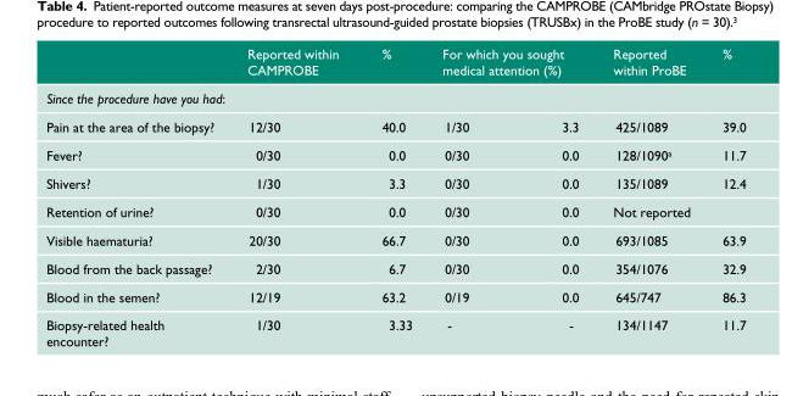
<table><thead><tr><td></td><td>Reported within CAMPROBE</td><td>%</td><td colspan="2">For which you sought medical attention (%)</td><td>Reported within ProBE</td><td>%</td></tr><tr><td colspan="7">Since the procedure have you had:</td></tr><tr><td>Pain at the area of the biopsy?</td><td>12/30</td><td>40.0</td><td>1/30</td><td>3.3</td><td>425/1089</td><td>39.0</td></tr></thead><tbody><tr><td>Fever?</td><td>0/30</td><td>0.0</td><td>0/30</td><td>0.0</td><td>128/1090<sup>a</sup></td><td>11.7</td></tr><tr><td>Shivers?</td><td>1/30</td><td>3.3</td><td>0/30</td><td>0.0</td><td>135/1089</td><td>12.4</td></tr><tr><td>Retention of urine?</td><td>0/30</td><td>0.0</td><td>0/30</td><td>0.0</td><td colspan="2">Not reported</td></tr><tr><td>Visible haematuria?</td><td>20/30</td><td>66.7</td><td>0/30</td><td>0.0</td><td>693/1085</td><td>63.9</td></tr><tr><td>Blood from the back passage?</td><td>2/30</td><td>6.7</td><td>0/30</td><td>0.0</td><td>354/1076</td><td>32.9</td></tr><tr><td>Blood in the semen?</td><td>12/19</td><td>63.2</td><td>0/19</td><td>0.0</td><td>645/747</td><td>86.3</td></tr><tr><td>Biopsy-related health encounter?</td><td>1/30</td><td>3.33</td><td>-</td><td>-</td><td>134/1147</td><td>11.7</td></tr></tbody></table>